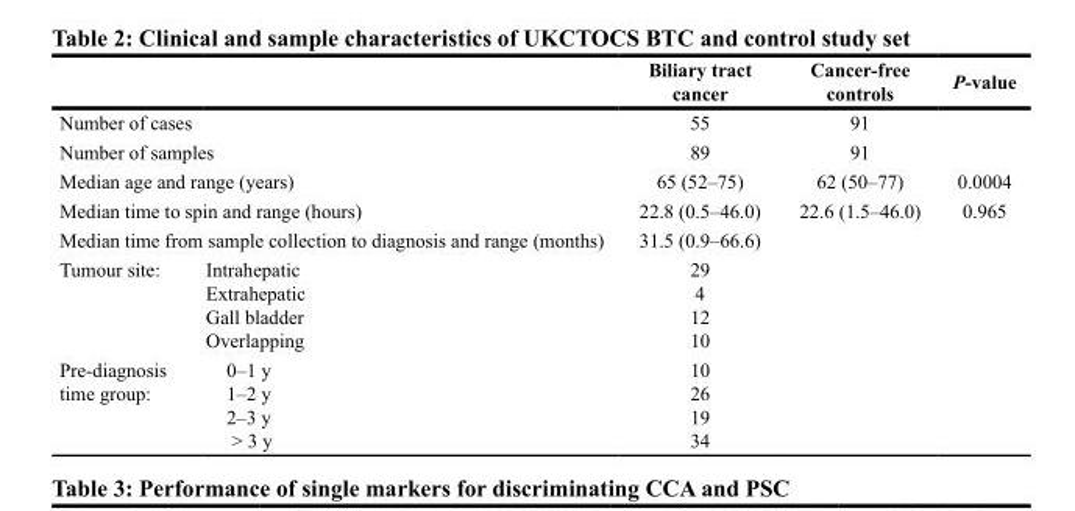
<table><thead><tr><td></td><td></td><td>Biliary tract cancer</td><td>Cancer-free controls</td><td>P-value</td></tr></thead><tbody><tr><td colspan="2">Number of cases</td><td>55</td><td>91</td><td></td></tr><tr><td colspan="2">Number of samples</td><td>89</td><td>91</td><td></td></tr><tr><td colspan="2">Median age and range (years)</td><td>65 (52–75)</td><td>62 (50–77)</td><td>0.0004</td></tr><tr><td colspan="2">Median time to spin and range (hours)</td><td>22.8 (0.5–46.0)</td><td>22.6 (1.5–46.0)</td><td>0.965</td></tr><tr><td colspan="2">Median time from sample collection to diagnosis and range (months)</td><td>31.5 (0.9–66.6)</td><td></td><td></td></tr><tr><td rowspan="4">Tumour site:</td><td>Intrahepatic</td><td>29</td><td rowspan="4"></td><td rowspan="4"></td></tr><tr><td>Extrahepatic</td><td>4</td></tr><tr><td>Gall bladder</td><td>12</td></tr><tr><td>Overlapping</td><td>10</td></tr><tr><td rowspan="4">Pre-diagnosis time group:</td><td>0–1 y</td><td>10</td><td rowspan="4"></td><td rowspan="4"></td></tr><tr><td>1–2 y</td><td>26</td></tr><tr><td>2–3 y</td><td>19</td></tr><tr><td>&gt; 3 y</td><td>34</td></tr></tbody></table>